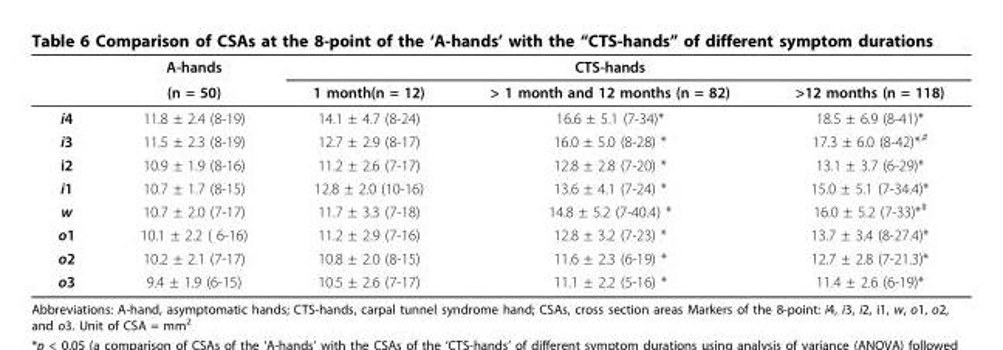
<table><thead><tr><td rowspan="2"></td><td rowspan="2">A-hands (n = 50)</td><td rowspan="2">1 month(n = 12)</td><td rowspan="2">CTS-hands &gt; 1 month and 12 months (n = 82)</td><td rowspan="2">&gt;12 months (n = 118)</td></tr><tr></tr></thead><tbody><tr><td>i4</td><td>11.8 ± 2.4 (8-19)</td><td>14.1 ± 4.7 (8-24)</td><td>16.6 ± 5.1 (7-34)*</td><td>18.5 ± 6.9 (8-41)*</td></tr><tr><td>i3</td><td>11.5 ± 2.3 (8-19)</td><td>12.7 ± 2.9 (8-17)</td><td>16.0 ± 5.0 (8-28) *</td><td>17.3 ± 6.0 (8-42)*<sup>,#</sup></td></tr><tr><td>i2</td><td>10.9 ± 1.9 (8-16)</td><td>11.2 ± 2.6 (7-17)</td><td>12.8 ± 2.8 (7-20) *</td><td>13.1 ± 3.7 (6-29)*</td></tr><tr><td>i1</td><td>10.7 ± 1.7 (8-15)</td><td>12.8 ± 2.0 (10-16)</td><td>13.6 ± 4.1 (7-24) *</td><td>15.0 ± 5.1 (7-34.4)*</td></tr><tr><td>w</td><td>10.7 ± 2.0 (7-17)</td><td>11.7 ± 3.3 (7-18)</td><td>14.8 ± 5.2 (7-40.4) *</td><td>16.0 ± 5.2 (7-33)*<sup>#</sup></td></tr><tr><td>o1</td><td>10.1 ± 2.2 ( 6-16)</td><td>11.2 ± 2.9 (7-16)</td><td>12.8 ± 3.2 (7-23) *</td><td>13.7 ± 3.4 (8-27.4)*</td></tr><tr><td>o2</td><td>10.2 ± 2.1 (7-17)</td><td>10.8 ± 2.0 (8-15)</td><td>11.6 ± 2.3 (6-19) *</td><td>12.7 ± 2.8 (7-21.3)*</td></tr><tr><td>o3</td><td>9.4 ± 1.9 (6-15)</td><td>10.5 ± 2.6 (7-17)</td><td>11.1 ± 2.2 (5-16) *</td><td>11.4 ± 2.6 (6-19)*</td></tr></tbody></table>